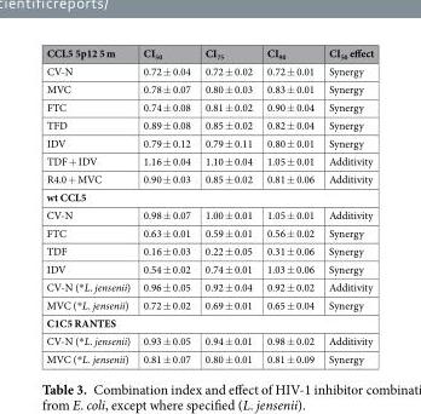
<table><thead><tr><td>CCL5 5p12 5 m</td><td>CI<sub>50</sub></td><td>CI<sub>75</sub></td><td>CI<sub>90</sub></td><td>CI<sub>50</sub> effect</td></tr></thead><tbody><tr><td>CV-N</td><td>0.72 ± 0.04</td><td>0.72 ± 0.02</td><td>0.72 ± 0.01</td><td>Synergy</td></tr><tr><td>MVC</td><td>0.78 ± 0.07</td><td>0.80 ± 0.03</td><td>0.83 ± 0.01</td><td>Synergy</td></tr><tr><td>FTC</td><td>0.74 ± 0.08</td><td>0.81 ± 0.02</td><td>0.90 ± 0.04</td><td>Synergy</td></tr><tr><td>TFD</td><td>0.89 ± 0.08</td><td>0.85 ± 0.02</td><td>0.82 ± 0.04</td><td>Synergy</td></tr><tr><td>IDV</td><td>0.79 ± 0.12</td><td>0.79 ± 0.11</td><td>0.80 ± 0.01</td><td>Synergy</td></tr><tr><td>TDF + IDV</td><td>1.16 ± 0.04</td><td>1.10 ± 0.04</td><td>1.05 ± 0.01</td><td>Additivity</td></tr><tr><td>R4.0 + MVC</td><td>0.90 ± 0.03</td><td>0.85 ± 0.02</td><td>0.81 ± 0.06</td><td>Additivity</td></tr><tr><td colspan="5">wt CCL5</td></tr><tr><td>CV-N</td><td>0.98 ± 0.07</td><td>1.00 ± 0.01</td><td>1.05 ± 0.01</td><td>Additivity</td></tr><tr><td>FTC</td><td>0.63 ± 0.01</td><td>0.59 ± 0.01</td><td>0.56 ± 0.02</td><td>Synergy</td></tr><tr><td>TDF</td><td>0.16 ± 0.03</td><td>0.22 ± 0.05</td><td>0.31 ± 0.06</td><td>Synergy</td></tr><tr><td>IDV</td><td>0.54 ± 0.02</td><td>0.74 ± 0.01</td><td>1.03 ± 0.06</td><td>Synergy</td></tr><tr><td>CV-N (*L. jensenii)</td><td>0.96 ± 0.05</td><td>0.92 ± 0.04</td><td>0.92 ± 0.02</td><td>Additivity</td></tr><tr><td>MVC (*L. jensenii)</td><td>0.72 ± 0.02</td><td>0.69 ± 0.01</td><td>0.65 ± 0.04</td><td>Synergy</td></tr><tr><td colspan="5">C1C5 RANTES</td></tr><tr><td>CV-N (*L. jensenii)</td><td>0.93 ± 0.05</td><td>0.94 ± 0.01</td><td>0.98 ± 0.02</td><td>Additivity</td></tr><tr><td>MVC (*L. jensenii)</td><td>0.81 ± 0.07</td><td>0.80 ± 0.01</td><td>0.81 ± 0.09</td><td>Synergy</td></tr></tbody></table>